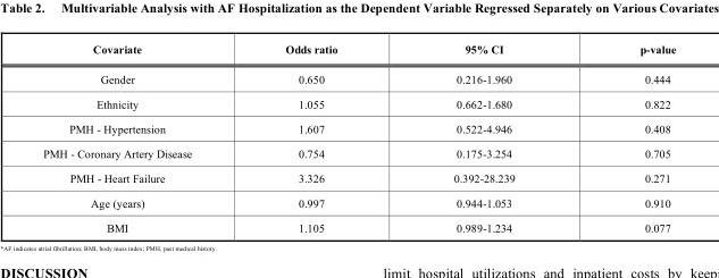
<table><thead><tr><td>Covariate</td><td>Odds ratio</td><td>95% CI</td><td>p-value</td></tr></thead><tbody><tr><td>Gender</td><td>0.650</td><td>0.216-1.960</td><td>0.444</td></tr><tr><td>Ethnicity</td><td>1.055</td><td>0.662-1.680</td><td>0.822</td></tr><tr><td>PMH - Hypertension</td><td>1.607</td><td>0.522-4.946</td><td>0.408</td></tr><tr><td>PMH - Coronary Artery Disease</td><td>0.754</td><td>0.175-3.254</td><td>0.705</td></tr><tr><td>PMH - Heart Failure</td><td>3.326</td><td>0.392-28.239</td><td>0.271</td></tr><tr><td>Age (years)</td><td>0.997</td><td>0.944-1.053</td><td>0.910</td></tr><tr><td>BMI</td><td>1.105</td><td>0.989-1.234</td><td>0.077</td></tr></tbody></table>